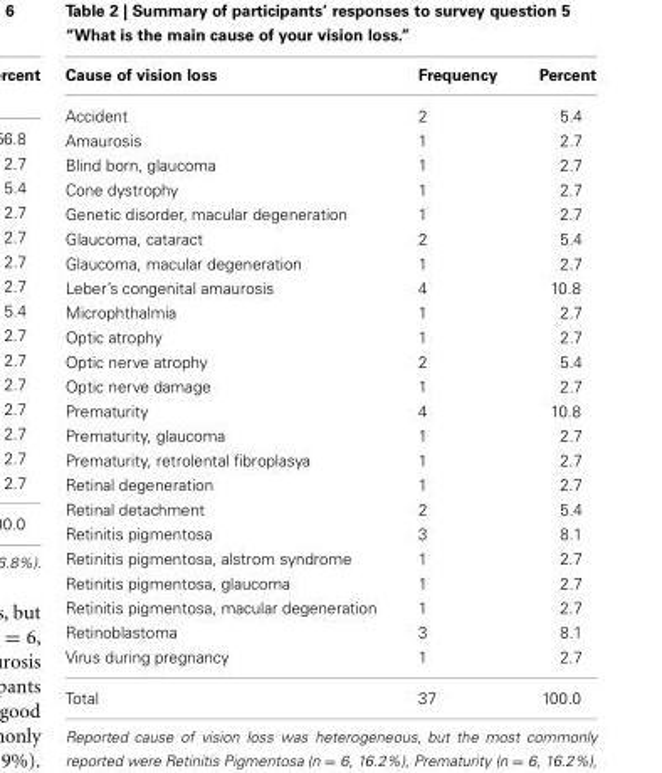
<table><thead><tr><td>Cause of vision loss</td><td>Frequency</td><td>Percent</td></tr></thead><tbody><tr><td>Accident</td><td>2</td><td>5.4</td></tr><tr><td>Amaurosis</td><td>1</td><td>2.7</td></tr><tr><td>Blind born, glaucoma</td><td>1</td><td>2.7</td></tr><tr><td>Cone dystrophy</td><td>1</td><td>2.7</td></tr><tr><td>Genetic disorder, macular degeneration</td><td>1</td><td>2.7</td></tr><tr><td>Glaucoma, cataract</td><td>2</td><td>5.4</td></tr><tr><td>Glaucoma, macular degeneration</td><td>1</td><td>2.7</td></tr><tr><td>Leber’s congenital amaurosis</td><td>4</td><td>10.8</td></tr><tr><td>Microphthalmia</td><td>1</td><td>2.7</td></tr><tr><td>Optic atrophy</td><td>1</td><td>2.7</td></tr><tr><td>Optic nerve atrophy</td><td>2</td><td>5.4</td></tr><tr><td>Optic nerve damage</td><td>1</td><td>2.7</td></tr><tr><td>Prematurity</td><td>4</td><td>10.8</td></tr><tr><td>Prematurity, glaucoma</td><td>1</td><td>2.7</td></tr><tr><td>Prematurity, retrolental fibroplasya</td><td>1</td><td>2.7</td></tr><tr><td>Retinal degeneration</td><td>1</td><td>2.7</td></tr><tr><td>Retinal detachment</td><td>2</td><td>5.4</td></tr><tr><td>Retinitis pigmentosa</td><td>3</td><td>8.1</td></tr><tr><td>Retinitis pigmentosa, alstrom syndrome</td><td>1</td><td>2.7</td></tr><tr><td>Retinitis pigmentosa, glaucoma</td><td>1</td><td>2.7</td></tr><tr><td>Retinitis pigmentosa, macular degeneration</td><td>1</td><td>2.7</td></tr><tr><td>Retinoblastoma</td><td>3</td><td>8.1</td></tr><tr><td>Virus during pregnancy</td><td>1</td><td>2.7</td></tr><tr><td>Total</td><td>37</td><td>100.0</td></tr></tbody></table>